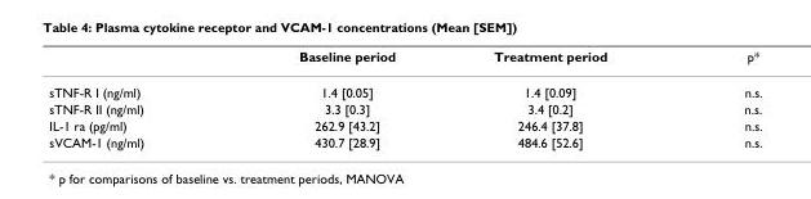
<table><thead><tr><td></td><td>Baseline period</td><td>Treatment period</td><td>p*</td></tr></thead><tbody><tr><td>sTNF-R I (ng/ml)</td><td>1.4 [0.05]</td><td>1.4 [0.09]</td><td>n.s.</td></tr><tr><td>sTNF-R II (ng/ml)</td><td>3.3 [0.3]</td><td>3.4 [0.2]</td><td>n.s.</td></tr><tr><td>IL-1 ra (pg/ml)</td><td>262.9 [43.2]</td><td>246.4 [37.8]</td><td>n.s.</td></tr><tr><td>sVCAM-1 (ng/ml)</td><td>430.7 [28.9]</td><td>484.6 [52.6]</td><td>n.s.</td></tr></tbody></table>